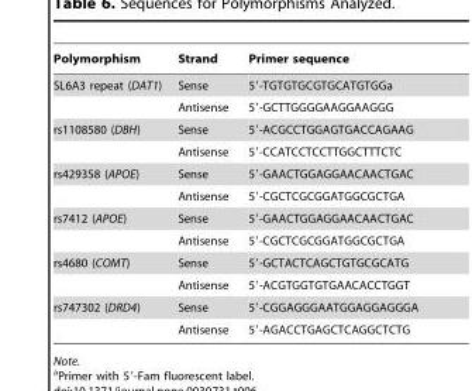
<table><thead><tr><td>Polymorphism</td><td>Strand</td><td>Primer sequence</td></tr></thead><tbody><tr><td rowspan="2">SL6A3 repeat (DAT1)</td><td>Sense</td><td>5′-TGTGTGCGTGCATGTGGa</td></tr><tr><td>Antisense</td><td>5′-GCTTGGGGAAGGAAGGG</td></tr><tr><td rowspan="2">rs1108580 (DBH)</td><td>Sense</td><td>5′-ACGCCTGGAGTGACCAGAAG</td></tr><tr><td>Antisense</td><td>5′-CCATCCTCCTTGGCTTTCTC</td></tr><tr><td rowspan="2">rs429358 (APOE)</td><td>Sense</td><td>5′-GAACTGGAGGAACAACTGAC</td></tr><tr><td>Antisense</td><td>5′-CGCTCGCGGATGGCGCTGA</td></tr><tr><td rowspan="2">rs7412 (APOE)</td><td>Sense</td><td>5′-GAACTGGAGGAACAACTGAC</td></tr><tr><td>Antisense</td><td>5′-CGCTCGCGGATGGCGCTGA</td></tr><tr><td rowspan="2">rs4680 (COMT)</td><td>Sense</td><td>5′-GCTACTCAGCTGTGCGCATG</td></tr><tr><td>Antisense</td><td>5′-ACGTGGTGTGAACACCTGGT</td></tr><tr><td rowspan="2">rs747302 (DRD4)</td><td>Sense</td><td>5′-CGGAGGGAATGGAGGAGGGA</td></tr><tr><td>Antisense</td><td>5′-AGACCTGAGCTCAGGCTCTG</td></tr></tbody></table>